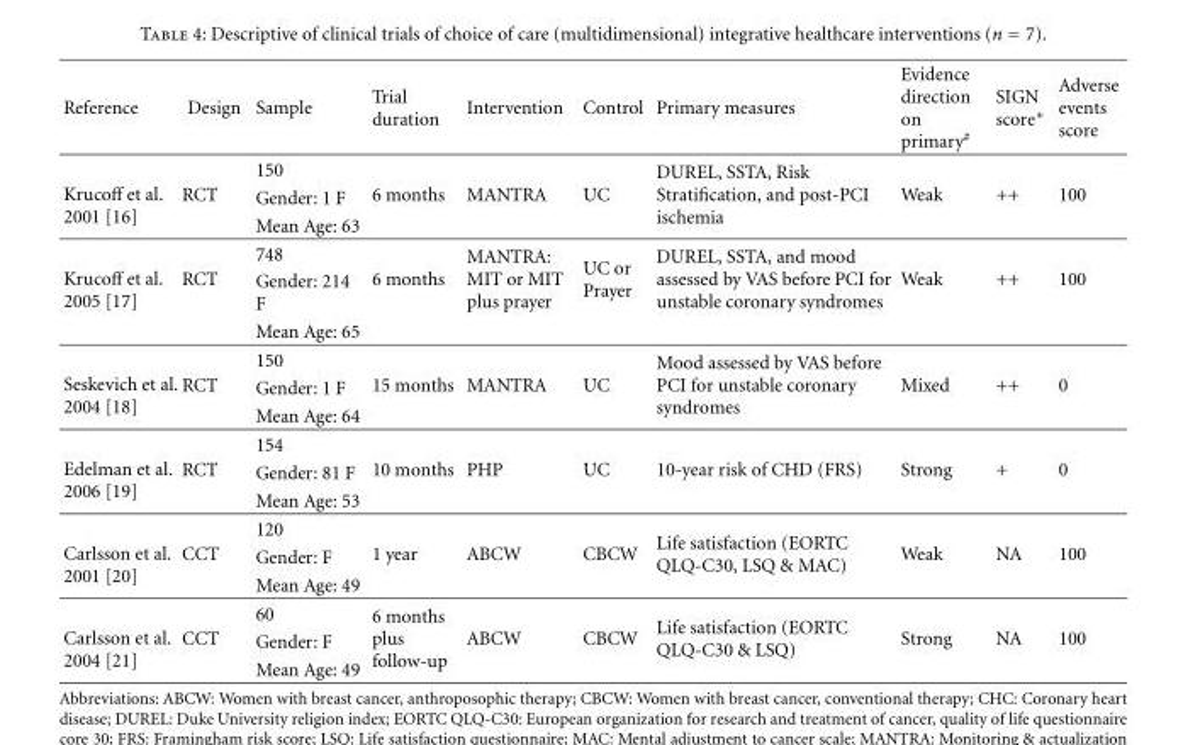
<table><thead><tr><td>Reference</td><td>Design</td><td>Sample</td><td>Trial duration</td><td>Intervention</td><td>Control</td><td>Primary measures</td><td>Evidence direction on primary<sup>#</sup></td><td>SIGN score∗</td><td>Adverse events score</td></tr></thead><tbody><tr><td rowspan="3">Krucoff et al. 2001 [16]</td><td rowspan="3">RCT</td><td>150</td><td rowspan="3">6 months</td><td rowspan="3">MANTRA</td><td rowspan="3">UC</td><td rowspan="3">DUREL, SSTA, Risk Stratification, and post-PCI ischemia</td><td rowspan="3">Weak</td><td rowspan="3">++</td><td rowspan="3">100</td></tr><tr><td>Gender: 1 F</td></tr><tr><td>Mean Age: 63</td></tr><tr><td rowspan="3">Krucoff et al. 2005 [17]</td><td rowspan="3">RCT</td><td>748</td><td rowspan="3">6 months</td><td rowspan="3">MANTRA: MIT or MIT plus prayer</td><td rowspan="3">UC or Prayer</td><td rowspan="3">DUREL, SSTA, and mood assessed by VAS before PCI for unstable coronary syndromes</td><td rowspan="3">Weak</td><td rowspan="3">++</td><td rowspan="3">100</td></tr><tr><td>Gender: 214 F</td></tr><tr><td>Mean Age: 65</td></tr><tr><td rowspan="3">Seskevich et al. 2004 [18]</td><td rowspan="3">RCT</td><td>150</td><td rowspan="3">15 months</td><td rowspan="3">MANTRA</td><td rowspan="3">UC</td><td rowspan="3">Mood assessed by VAS before PCI for unstable coronary syndromes</td><td rowspan="3">Mixed</td><td rowspan="3">++</td><td rowspan="3">0</td></tr><tr><td>Gender: 1 F</td></tr><tr><td>Mean Age: 64</td></tr><tr><td rowspan="3">Edelman et al. 2006 [19]</td><td rowspan="3">RCT</td><td>154</td><td rowspan="3">10 months</td><td rowspan="3">PHP</td><td rowspan="3">UC</td><td rowspan="3">10-year risk of CHD (FRS)</td><td rowspan="3">Strong</td><td rowspan="3">+</td><td rowspan="3">0</td></tr><tr><td>Gender: 81 F</td></tr><tr><td>Mean Age: 53</td></tr><tr><td rowspan="3">Carlsson et al. 2001 [20]</td><td rowspan="3">CCT</td><td>120</td><td rowspan="3">1 year</td><td rowspan="3">ABCW</td><td rowspan="3">CBCW</td><td rowspan="3">Life satisfaction (EORTC QLQ-C30, LSQ &amp; MAC)</td><td rowspan="3">Weak</td><td rowspan="3">NA</td><td rowspan="3">100</td></tr><tr><td>Gender: F</td></tr><tr><td>Mean Age: 49</td></tr><tr><td rowspan="3">Carlsson et al. 2004 [21]</td><td rowspan="3">CCT</td><td>60</td><td rowspan="3">6 months plus follow-up</td><td rowspan="3">ABCW</td><td rowspan="3">CBCW</td><td rowspan="3">Life satisfaction (EORTC QLQ-C30 &amp; LSQ)</td><td rowspan="3">Strong</td><td rowspan="3">NA</td><td rowspan="3">100</td></tr><tr><td>Gender: F</td></tr><tr><td>Mean Age: 49</td></tr></tbody></table>